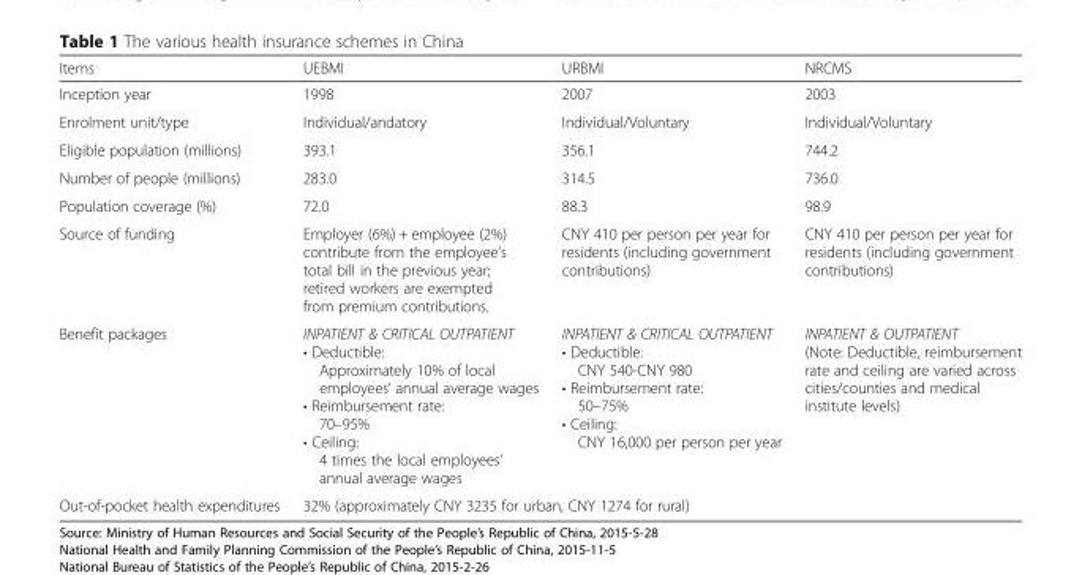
<table><thead><tr><td>Items</td><td>UEBMI</td><td>URBMI</td><td>NRCMS</td></tr></thead><tbody><tr><td>Inception year</td><td>1998</td><td>2007</td><td>2003</td></tr><tr><td>Enrolment unit/type</td><td>Individual/andatory</td><td>Individual/Voluntary</td><td>Individual/Voluntary</td></tr><tr><td>Eligible population (millions)</td><td>393.1</td><td>356.1</td><td>744.2</td></tr><tr><td>Number of people (millions)</td><td>283.0</td><td>314.5</td><td>736.0</td></tr><tr><td>Population coverage (%)</td><td>72.0</td><td>88.3</td><td>98.9</td></tr><tr><td>Source of funding</td><td>Employer (6%) + employee (2%) contribute from the employee’s total bill in the previous year; retired workers are exempted from premium contributions.</td><td>CNY 410 per person per year for residents (including government contributions)</td><td>CNY 410 per person per year for residents (including government contributions)</td></tr><tr><td>Benefit packages</td><td>INPATIENT &amp; CRITICAL OUTPATIENT • Deductible: Approximately 10% of local employees’ annual average wages • Reimbursement rate: 70–95% • Ceiling: 4 times the local employees’ annual average wages</td><td>INPATIENT &amp; CRITICAL OUTPATIENT • Deductible: CNY 540-CNY 980 • Reimbursement rate: 50–75% • Ceiling: CNY 16,000 per person per year</td><td>INPATIENT &amp; OUTPATIENT (Note: Deductible, reimbursement rate and ceiling are varied across cities/counties and medical institute levels)</td></tr><tr><td>Out-of-pocket health expenditures</td><td colspan="3">32% (approximately CNY 3235 for urban, CNY 1274 for rural)</td></tr></tbody></table>